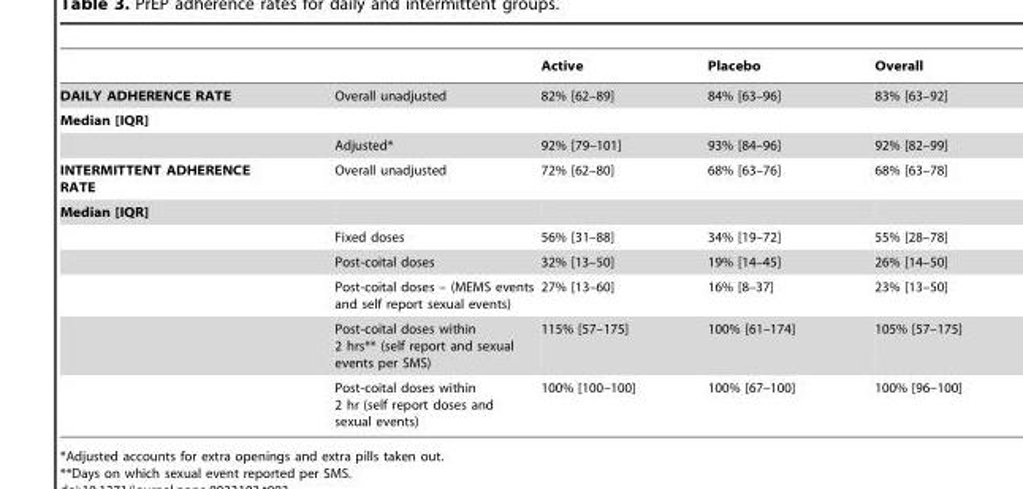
<table><thead><tr><td></td><td></td><td>Active</td><td>Placebo</td><td>Overall</td></tr></thead><tbody><tr><td>DAILY ADHERENCE RATE</td><td>Overall unadjusted</td><td>82% [62–89]</td><td>84% [63–96]</td><td>83% [63–92]</td></tr><tr><td colspan="5">Median [IQR]</td></tr><tr><td></td><td>Adjusted*</td><td>92% [79–101]</td><td>93% [84–96]</td><td>92% [82–99]</td></tr><tr><td>INTERMITTENT ADHERENCE RATE</td><td>Overall unadjusted</td><td>72% [62–80]</td><td>68% [63–76]</td><td>68% [63–78]</td></tr><tr><td colspan="5">Median [IQR]</td></tr><tr><td></td><td>Fixed doses</td><td>56% [31–88]</td><td>34% [19–72]</td><td>55% [28–78]</td></tr><tr><td></td><td>Post-coital doses</td><td>32% [13–50]</td><td>19% [14–45]</td><td>26% [14–50]</td></tr><tr><td></td><td>Post-coital doses – (MEMS events and self report sexual events)</td><td>27% [13–60]</td><td>16% [8–37]</td><td>23% [13–50]</td></tr><tr><td></td><td>Post-coital doses within 2 hrs** (self report and sexual events per SMS)</td><td>115% [57–175]</td><td>100% [61–174]</td><td>105% [57–175]</td></tr><tr><td></td><td>Post-coital doses within 2 hr (self report doses and sexual events)</td><td>100% [100–100]</td><td>100% [67–100]</td><td>100% [96–100]</td></tr></tbody></table>